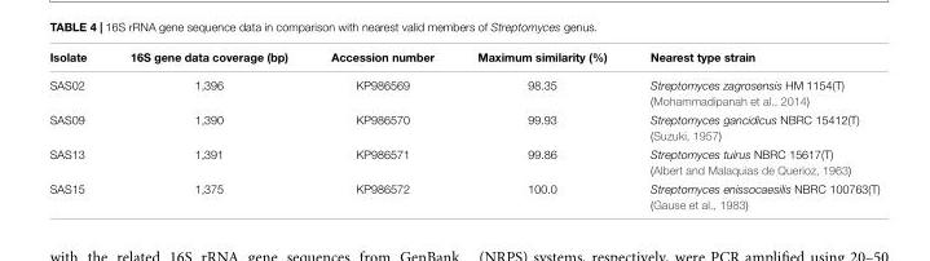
<table><thead><tr><td>Isolate</td><td>16S gene data coverage (bp)</td><td>Accession number</td><td>Maximum similarity (%)</td><td>Nearest type strain</td></tr></thead><tbody><tr><td>SAS02</td><td>1,396</td><td>KP986569</td><td>98.35</td><td>Streptomyces zagrosensis HM 1154(T) (Mohammadipanah et al., 2014)</td></tr><tr><td>SAS09</td><td>1,390</td><td>KP986570</td><td>99.93</td><td>Streptomyces gancidicus NBRC 15412(T) (Suzuki, 1957)</td></tr><tr><td>SAS13</td><td>1,391</td><td>KP986571</td><td>99.86</td><td>Streptomyces tuirus NBRC 15617(T) (Albert and Malaquias de Querioz, 1963)</td></tr><tr><td>SAS15</td><td>1,375</td><td>KP986572</td><td>100.0</td><td>Streptomyces enissocaesilis NBRC 100763(T) (Gause et al., 1983)</td></tr></tbody></table>